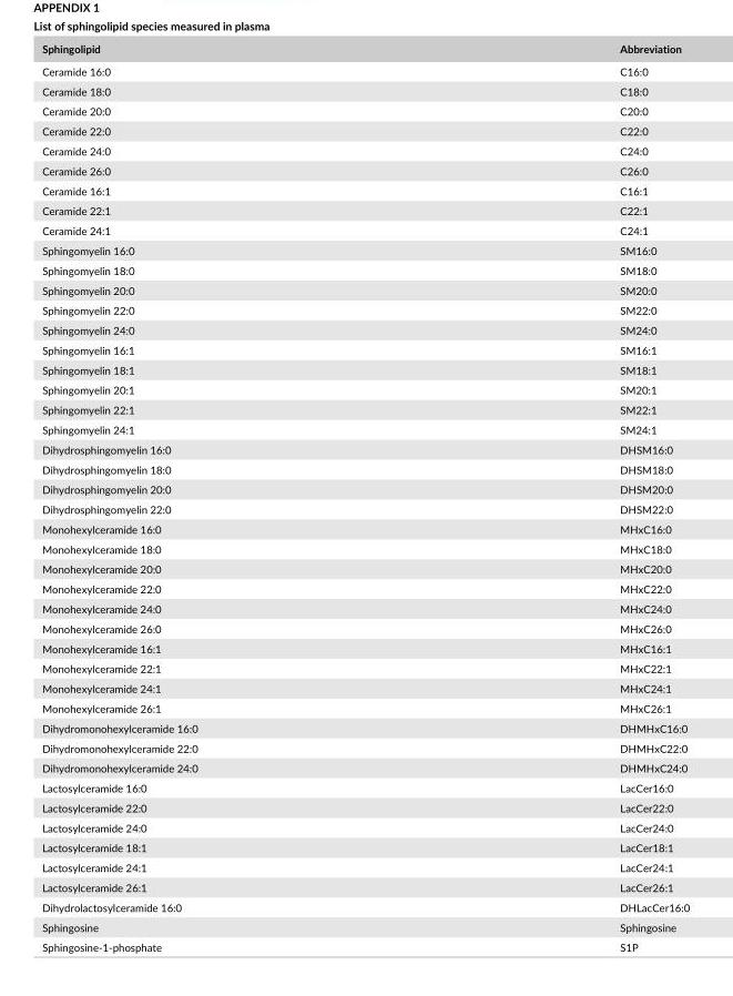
<table><thead><tr><td>Sphingolipid</td><td>Abbreviation</td></tr></thead><tbody><tr><td>Ceramide 16:0</td><td>C16:0</td></tr><tr><td>Ceramide 18:0</td><td>C18:0</td></tr><tr><td>Ceramide 20:0</td><td>C20:0</td></tr><tr><td>Ceramide 22:0</td><td>C22:0</td></tr><tr><td>Ceramide 24:0</td><td>C24:0</td></tr><tr><td>Ceramide 26:0</td><td>C26:0</td></tr><tr><td>Ceramide 16:1</td><td>C16:1</td></tr><tr><td>Ceramide 22:1</td><td>C22:1</td></tr><tr><td>Ceramide 24:1</td><td>C24:1</td></tr><tr><td>Sphingomyelin 16:0</td><td>SM16:0</td></tr><tr><td>Sphingomyelin 18:0</td><td>SM18:0</td></tr><tr><td>Sphingomyelin 20:0</td><td>SM20:0</td></tr><tr><td>Sphingomyelin 22:0</td><td>SM22:0</td></tr><tr><td>Sphingomyelin 24:0</td><td>SM24:0</td></tr><tr><td>Sphingomyelin 16:1</td><td>SM16:1</td></tr><tr><td>Sphingomyelin 18:1</td><td>SM18:1</td></tr><tr><td>Sphingomyelin 20:1</td><td>SM20:1</td></tr><tr><td>Sphingomyelin 22:1</td><td>SM22:1</td></tr><tr><td>Sphingomyelin 24:1</td><td>SM24:1</td></tr><tr><td>Dihydrosphingomyelin 16:0</td><td>DHSM16:0</td></tr><tr><td>Dihydrosphingomyelin 18:0</td><td>DHSM18:0</td></tr><tr><td>Dihydrosphingomyelin 20:0</td><td>DHSM20:0</td></tr><tr><td>Dihydrosphingomyelin 22:0</td><td>DHSM22:0</td></tr><tr><td>Monohexylceramide 16:0</td><td>MHxC16:0</td></tr><tr><td>Monohexylceramide 18:0</td><td>MHxC18:0</td></tr><tr><td>Monohexylceramide 20:0</td><td>MHxC20:0</td></tr><tr><td>Monohexylceramide 22:0</td><td>MHxC22:0</td></tr><tr><td>Monohexylceramide 24:0</td><td>MHxC24:0</td></tr><tr><td>Monohexylceramide 26:0</td><td>MHxC26:0</td></tr><tr><td>Monohexylceramide 16:1</td><td>MHxC16:1</td></tr><tr><td>Monohexylceramide 22:1</td><td>MHxC22:1</td></tr><tr><td>Monohexylceramide 24:1</td><td>MHxC24:1</td></tr><tr><td>Monohexylceramide 26:1</td><td>MHxC26:1</td></tr><tr><td>Dihydromonohexylceramide 16:0</td><td>DHMHxC16:0</td></tr><tr><td>Dihydromonohexylceramide 22:0</td><td>DHMHxC22:0</td></tr><tr><td>Dihydromonohexylceramide 24:0</td><td>DHMHxC24:0</td></tr><tr><td>Lactosylceramide 16:0</td><td>LacCer16:0</td></tr><tr><td>Lactosylceramide 22:0</td><td>LacCer22:0</td></tr><tr><td>Lactosylceramide 24:0</td><td>LacCer24:0</td></tr><tr><td>Lactosylceramide 18:1</td><td>LacCer18:1</td></tr><tr><td>Lactosylceramide 24:1</td><td>LacCer24:1</td></tr><tr><td>Lactosylceramide 26:1</td><td>LacCer26:1</td></tr><tr><td>Dihydrolactosylceramide 16:0</td><td>DHLacCer16:0</td></tr><tr><td>Sphingosine</td><td>Sphingosine</td></tr><tr><td>Sphingosine- 1- phosphate</td><td>S1P</td></tr></tbody></table>